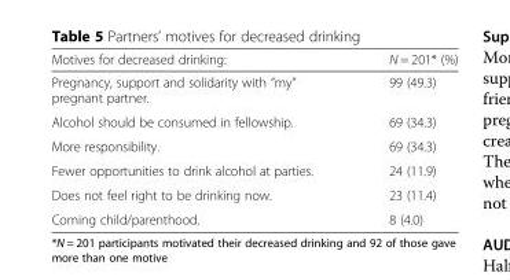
<table><thead><tr><td>Motives for decreased drinking:</td><td>N = 201* (%)</td></tr></thead><tbody><tr><td>Pregnancy, support and solidarity with “my” pregnant partner.</td><td>99 (49.3)</td></tr><tr><td>Alcohol should be consumed in fellowship.</td><td>69 (34.3)</td></tr><tr><td>More responsibility.</td><td>69 (34.3)</td></tr><tr><td>Fewer opportunities to drink alcohol at parties.</td><td>24 (11.9)</td></tr><tr><td>Does not feel right to be drinking now.</td><td>23 (11.4)</td></tr><tr><td>Coming child/parenthood.</td><td>8 (4.0)</td></tr></tbody></table>